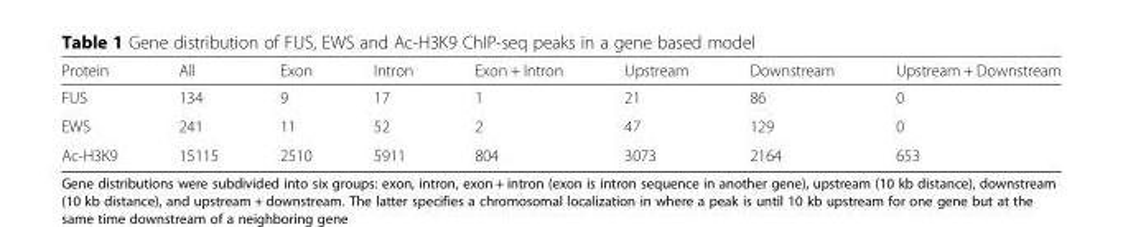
<table><thead><tr><td>Protein</td><td>All</td><td>Exon</td><td>Intron</td><td>Exon + Intron</td><td>Upstream</td><td>Downstream</td><td>Upstream + Downstream</td></tr></thead><tbody><tr><td>FUS</td><td>134</td><td>9</td><td>17</td><td>1</td><td>21</td><td>86</td><td>0</td></tr><tr><td>EWS</td><td>241</td><td>11</td><td>52</td><td>2</td><td>47</td><td>129</td><td>0</td></tr><tr><td>Ac-H3K9</td><td>15115</td><td>2510</td><td>5911</td><td>804</td><td>3073</td><td>2164</td><td>653</td></tr></tbody></table>